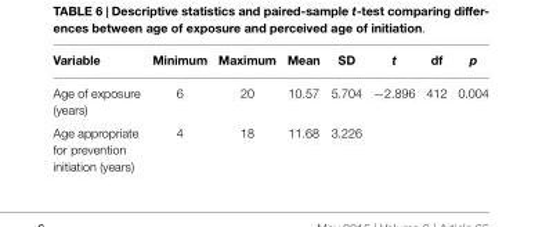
<table><thead><tr><td>Variable</td><td>Minimum</td><td>Maximum</td><td>Mean</td><td>SD</td><td>t</td><td>df</td><td>p</td></tr></thead><tbody><tr><td>Age of exposure (years)</td><td>6</td><td>20</td><td>10.57</td><td>5.704</td><td>−2.896</td><td>412</td><td>0.004</td></tr><tr><td>Age appropriate for prevention initiation (years)</td><td>4</td><td>18</td><td>11.68</td><td>3.226</td><td></td><td></td><td></td></tr></tbody></table>